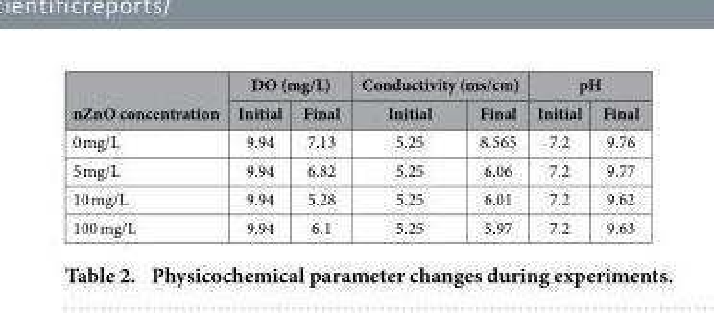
<table><thead><tr><td rowspan="2">nZnO concentration</td><td colspan="2">DO (mg/L)</td><td colspan="2">Conductivity (ms/cm)</td><td colspan="2">pH</td></tr><tr><td>Initial</td><td>Final</td><td>Initial</td><td>Final</td><td>Initial</td><td>Final</td></tr></thead><tbody><tr><td>0 mg/L</td><td>9.94</td><td>7.13</td><td>5.25</td><td>8.565</td><td>7.2</td><td>9.76</td></tr><tr><td>5 mg/L</td><td>9.94</td><td>6.82</td><td>5.25</td><td>6.06</td><td>7.2</td><td>9.77</td></tr><tr><td>10 mg/L</td><td>9.94</td><td>5.28</td><td>5.25</td><td>6.01</td><td>7.2</td><td>9.62</td></tr><tr><td>100 mg/L</td><td>9.94</td><td>6.1</td><td>5.25</td><td>5.97</td><td>7.2</td><td>9.63</td></tr></tbody></table>